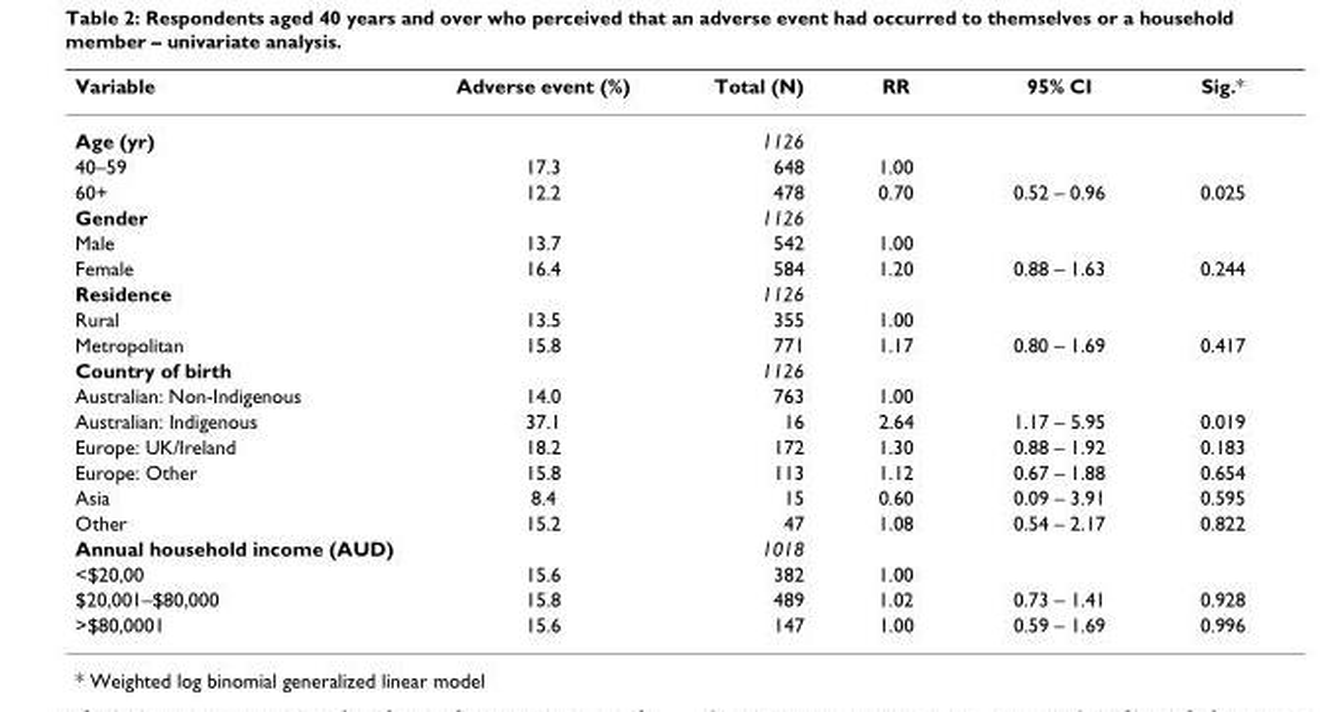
<table><thead><tr><td>Variable</td><td>Adverse event (%)</td><td>Total (N)</td><td>RR</td><td>95% CI</td><td>Sig.*</td></tr></thead><tbody><tr><td>Age (yr)</td><td></td><td>1126</td><td></td><td></td><td></td></tr><tr><td>40–59</td><td>17.3</td><td>648</td><td>1.00</td><td></td><td></td></tr><tr><td>60+</td><td>12.2</td><td>478</td><td>0.70</td><td>0.52 – 0.96</td><td>0.025</td></tr><tr><td>Gender</td><td></td><td>1126</td><td></td><td></td><td></td></tr><tr><td>Male</td><td>13.7</td><td>542</td><td>1.00</td><td></td><td></td></tr><tr><td>Female</td><td>16.4</td><td>584</td><td>1.20</td><td>0.88 – 1.63</td><td>0.244</td></tr><tr><td>Residence</td><td></td><td>1126</td><td></td><td></td><td></td></tr><tr><td>Rural</td><td>13.5</td><td>355</td><td>1.00</td><td></td><td></td></tr><tr><td>Metropolitan</td><td>15.8</td><td>771</td><td>1.17</td><td>0.80 – 1.69</td><td>0.417</td></tr><tr><td>Country of birth</td><td></td><td>1126</td><td></td><td></td><td></td></tr><tr><td>Australian: Non-Indigenous</td><td>14.0</td><td>763</td><td>1.00</td><td></td><td></td></tr><tr><td>Australian: Indigenous</td><td>37.1</td><td>16</td><td>2.64</td><td>1.17 – 5.95</td><td>0.019</td></tr><tr><td>Europe: UK/Ireland</td><td>18.2</td><td>172</td><td>1.30</td><td>0.88 – 1.92</td><td>0.183</td></tr><tr><td>Europe: Other</td><td>15.8</td><td>113</td><td>1.12</td><td>0.67 – 1.88</td><td>0.654</td></tr><tr><td>Asia</td><td>8.4</td><td>15</td><td>0.60</td><td>0.09 – 3.91</td><td>0.595</td></tr><tr><td>Other</td><td>15.2</td><td>47</td><td>1.08</td><td>0.54 – 2.17</td><td>0.822</td></tr><tr><td>Annual household income (AUD)</td><td></td><td>1018</td><td></td><td></td><td></td></tr><tr><td>&lt;$20,00</td><td>15.6</td><td>382</td><td>1.00</td><td></td><td></td></tr><tr><td>$20,001–$80,000</td><td>15.8</td><td>489</td><td>1.02</td><td>0.73 – 1.41</td><td>0.928</td></tr><tr><td>&gt;$80,0001</td><td>15.6</td><td>147</td><td>1.00</td><td>0.59 – 1.69</td><td>0.996</td></tr></tbody></table>